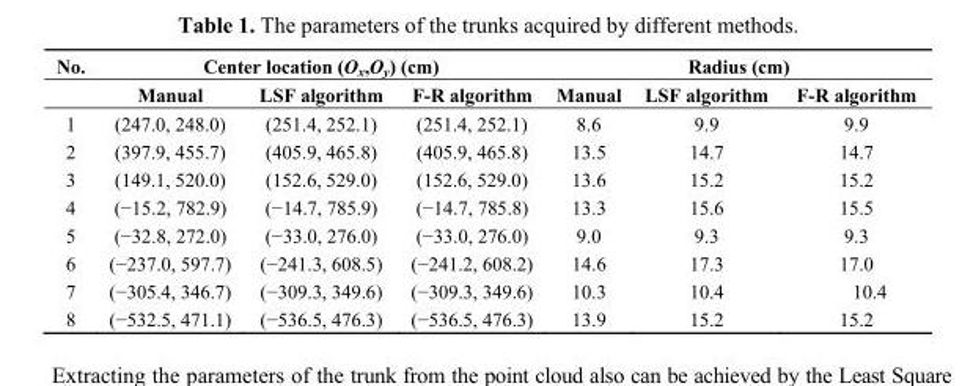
<table><thead><tr><td rowspan="2">No.</td><td colspan="3">Center location (O<sub>x</sub>,O<sub>y</sub>) (cm)</td><td colspan="3">Radius (cm)</td></tr><tr><td>Manual</td><td>LSF algorithm</td><td>F-R algorithm</td><td>Manual</td><td>LSF algorithm</td><td>F-R algorithm</td></tr></thead><tbody><tr><td>1</td><td>(247.0, 248.0)</td><td>(251.4, 252.1)</td><td>(251.4, 252.1)</td><td>8.6</td><td>9.9</td><td>9.9</td></tr><tr><td>2</td><td>(397.9, 455.7)</td><td>(405.9, 465.8)</td><td>(405.9, 465.8)</td><td>13.5</td><td>14.7</td><td>14.7</td></tr><tr><td>3</td><td>(149.1, 520.0)</td><td>(152.6, 529.0)</td><td>(152.6, 529.0)</td><td>13.6</td><td>15.2</td><td>15.2</td></tr><tr><td>4</td><td>(−15.2, 782.9)</td><td>(−14.7, 785.9)</td><td>(−14.7, 785.8)</td><td>13.3</td><td>15.6</td><td>15.5</td></tr><tr><td>5</td><td>(−32.8, 272.0)</td><td>(−33.0, 276.0)</td><td>(−33.0, 276.0)</td><td>9.0</td><td>9.3</td><td>9.3</td></tr><tr><td>6</td><td>(−237.0, 597.7)</td><td>(−241.3, 608.5)</td><td>(−241.2, 608.2)</td><td>14.6</td><td>17.3</td><td>17.0</td></tr><tr><td>7</td><td>(−305.4, 346.7)</td><td>(−309.3, 349.6)</td><td>(−309.3, 349.6)</td><td>10.3</td><td>10.4</td><td>10.4</td></tr><tr><td>8</td><td>(−532.5, 471.1)</td><td>(−536.5, 476.3)</td><td>(−536.5, 476.3)</td><td>13.9</td><td>15.2</td><td>15.2</td></tr></tbody></table>